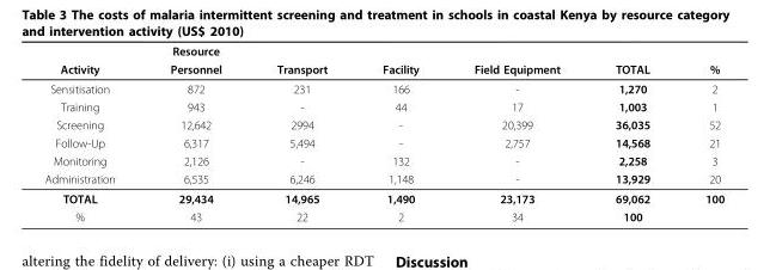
<table><thead><tr><td rowspan="2">Activity</td><td rowspan="2">Resource Personnel</td><td rowspan="2">Transport</td><td rowspan="2">Facility</td><td rowspan="2">Field Equipment</td><td rowspan="2">TOTAL</td><td rowspan="2">%</td></tr><tr></tr></thead><tbody><tr><td>Sensitisation</td><td>872</td><td>231</td><td>166</td><td>-</td><td>1,270</td><td>2</td></tr><tr><td>Training</td><td>943</td><td>-</td><td>44</td><td>17</td><td>1,003</td><td>1</td></tr><tr><td>Screening</td><td>12,642</td><td>2994</td><td>-</td><td>20,399</td><td>36,035</td><td>52</td></tr><tr><td>Follow-Up</td><td>6,317</td><td>5,494</td><td>-</td><td>2,757</td><td>14,568</td><td>21</td></tr><tr><td>Monitoring</td><td>2,126</td><td>-</td><td>132</td><td>-</td><td>2,258</td><td>3</td></tr><tr><td>Administration</td><td>6,535</td><td>6,246</td><td>1,148</td><td>-</td><td>13,929</td><td>20</td></tr><tr><td>TOTAL</td><td>29,434</td><td>14,965</td><td>1,490</td><td>23,173</td><td>69,062</td><td>100</td></tr><tr><td>%</td><td>43</td><td>22</td><td>2</td><td>34</td><td>100</td><td></td></tr></tbody></table>